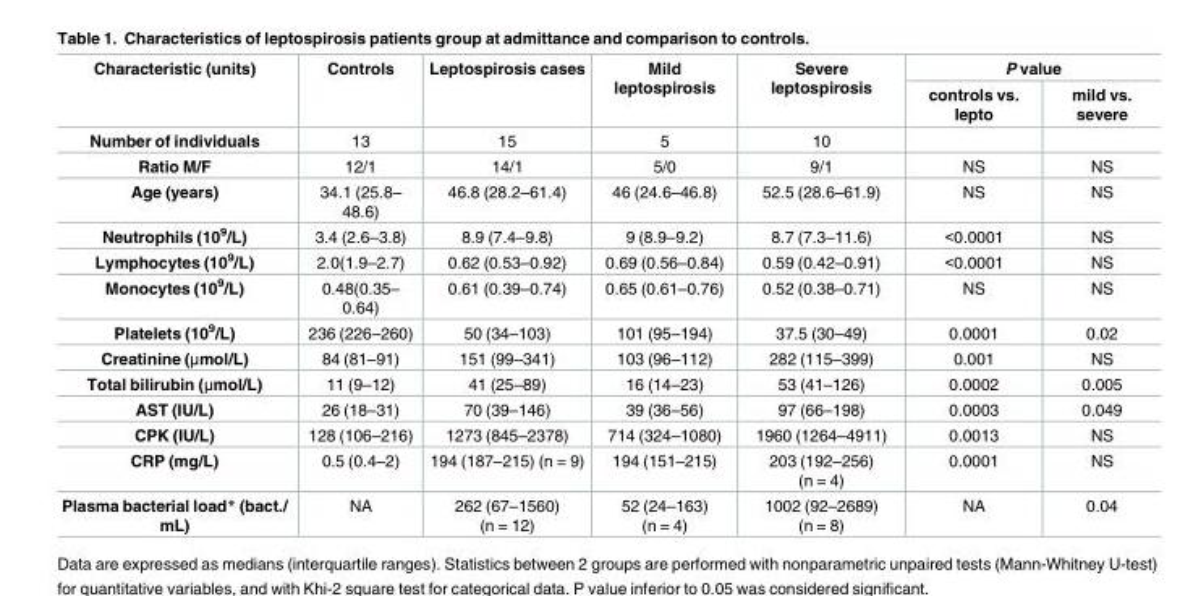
<table><thead><tr><td rowspan="2">Characteristic (units)</td><td rowspan="2">Controls</td><td rowspan="2">Leptospirosis cases</td><td rowspan="2">Mild leptospirosis</td><td rowspan="2">Severe leptospirosis</td><td colspan="2">P value</td></tr><tr><td>controls vs. lepto</td><td>mild vs. severe</td></tr></thead><tbody><tr><td>Number of individuals</td><td>13</td><td>15</td><td>5</td><td>10</td><td></td><td></td></tr><tr><td>Ratio M/F</td><td>12/1</td><td>14/1</td><td>5/0</td><td>9/1</td><td>NS</td><td>NS</td></tr><tr><td>Age (years)</td><td>34.1 (25.8– 48.6)</td><td>46.8 (28.2–61.4)</td><td>46 (24.6–46.8)</td><td>52.5 (28.6–61.9)</td><td>NS</td><td>NS</td></tr><tr><td>Neutrophils (10<sup>9</sup>/L)</td><td>3.4 (2.6–3.8)</td><td>8.9 (7.4–9.8)</td><td>9 (8.9–9.2)</td><td>8.7 (7.3–11.6)</td><td>&lt;0.0001</td><td>NS</td></tr><tr><td>Lymphocytes (10<sup>9</sup>/L)</td><td>2.0(1.9–2.7)</td><td>0.62 (0.53–0.92)</td><td>0.69 (0.56–0.84)</td><td>0.59 (0.42–0.91)</td><td>&lt;0.0001</td><td>NS</td></tr><tr><td>Monocytes (10<sup>9</sup>/L)</td><td>0.48(0.35– 0.64)</td><td>0.61 (0.39–0.74)</td><td>0.65 (0.61–0.76)</td><td>0.52 (0.38–0.71)</td><td>NS</td><td>NS</td></tr><tr><td>Platelets (10<sup>9</sup>/L)</td><td>236 (226–260)</td><td>50 (34–103)</td><td>101 (95–194)</td><td>37.5 (30–49)</td><td>0.0001</td><td>0.02</td></tr><tr><td>Creatinine (μmol/L)</td><td>84 (81–91)</td><td>151 (99–341)</td><td>103 (96–112)</td><td>282 (115–399)</td><td>0.001</td><td>NS</td></tr><tr><td>Total bilirubin (μmol/L)</td><td>11 (9–12)</td><td>41 (25–89)</td><td>16 (14–23)</td><td>53 (41–126)</td><td>0.0002</td><td>0.005</td></tr><tr><td>AST (IU/L)</td><td>26 (18–31)</td><td>70 (39–146)</td><td>39 (36–56)</td><td>97 (66–198)</td><td>0.0003</td><td>0.049</td></tr><tr><td>CPK (IU/L)</td><td>128 (106–216)</td><td>1273 (845–2378)</td><td>714 (324–1080)</td><td>1960 (1264–4911)</td><td>0.0013</td><td>NS</td></tr><tr><td>CRP (mg/L)</td><td>0.5 (0.4–2)</td><td>194 (187–215) (n = 9)</td><td>194 (151–215)</td><td>203 (192–256) (n = 4)</td><td>0.0001</td><td>NS</td></tr><tr><td>Plasma bacterial load* (bact./ mL)</td><td>NA</td><td>262 (67–1560) (n = 12)</td><td>52 (24–163) (n = 4)</td><td>1002 (92–2689) (n = 8)</td><td>NA</td><td>0.04</td></tr></tbody></table>